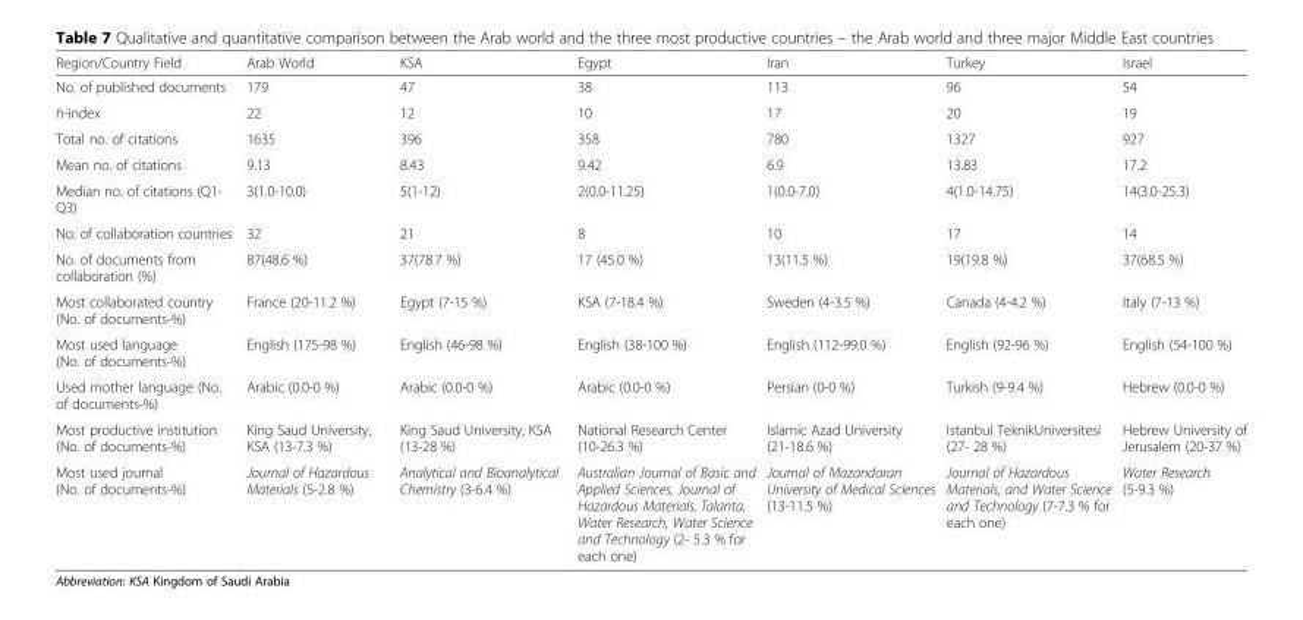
<table><thead><tr><td>Region/Country Field</td><td>Arab World</td><td>KSA</td><td>Egypt</td><td>Iran</td><td>Turkey</td><td>Israel</td></tr></thead><tbody><tr><td>No. of published documents</td><td>179</td><td>47</td><td>38</td><td>113</td><td>96</td><td>54</td></tr><tr><td>h-index</td><td>22</td><td>12</td><td>10</td><td>17</td><td>20</td><td>19</td></tr><tr><td>Total no. of citations</td><td>1635</td><td>396</td><td>358</td><td>780</td><td>1327</td><td>927</td></tr><tr><td>Mean no. of citations</td><td>9.13</td><td>8.43</td><td>9.42</td><td>6.9</td><td>13.83</td><td>17.2</td></tr><tr><td>Median no. of citations (Q1- Q3)</td><td>3(1.0-10.0)</td><td>5(1-12)</td><td>2(0.0-11.25)</td><td>1(0.0-7.0)</td><td>4(1.0-14.75)</td><td>14(3.0-25.3)</td></tr><tr><td>No. of collaboration countries</td><td>32</td><td>21</td><td>8</td><td>10</td><td>17</td><td>14</td></tr><tr><td>No. of documents from collaboration (%)</td><td>87(48.6 %)</td><td>37(78.7 %)</td><td>17 (45.0 %)</td><td>13(11.5 %)</td><td>19(19.8 %)</td><td>37(68.5 %)</td></tr><tr><td>Most collaborated country (No. of documents-%)</td><td>France (20-11.2 %)</td><td>Egypt (7-15 %)</td><td>KSA (7-18.4 %)</td><td>Sweden (4-3.5 %)</td><td>Canada (4-4.2 %)</td><td>Italy (7-13 %)</td></tr><tr><td>Most used language (No. of documents-%)</td><td>English (175-98 %)</td><td>English (46-98 %)</td><td>English (38-100 %)</td><td>English (112-99.0 %)</td><td>English (92-96 %)</td><td>English (54-100 %)</td></tr><tr><td>Used mother language (No. of documents-%)</td><td>Arabic (0.0-0 %)</td><td>Arabic (0.0-0 %)</td><td>Arabic (0.0-0 %)</td><td>Persian (0-0 %)</td><td>Turkish (9-9.4 %)</td><td>Hebrew (0.0-0 %)</td></tr><tr><td>Most productive institution (No. of documents-%)</td><td>King Saud University, KSA (13-7.3 %)</td><td>King Saud University, KSA (13-28 %)</td><td>National Research Center (10-26.3 %)</td><td>Islamic Azad University (21-18.6 %)</td><td>Istanbul TeknikUniversitesi (27- 28 %)</td><td>Hebrew University of Jerusalem (20-37 %)</td></tr><tr><td>Most used journal (No. of documents-%)</td><td>Journal of Hazardous Materials (5-2.8 %)</td><td>Analytical and Bioanalytical Chemistry (3-6.4 %)</td><td>Australian Journal of Basic and Applied Sciences, Journal of Hazardous Materials, Talanta, Water Research, Water Science and Technology (2- 5.3 % for each one)</td><td>Journal of Mazandaran University of Medical Sciences (13-11.5 %)</td><td>Journal of Hazardous Materials, and Water Science and Technology (7-7.3 % for each one)</td><td>Water Research (5-9.3 %)</td></tr></tbody></table>